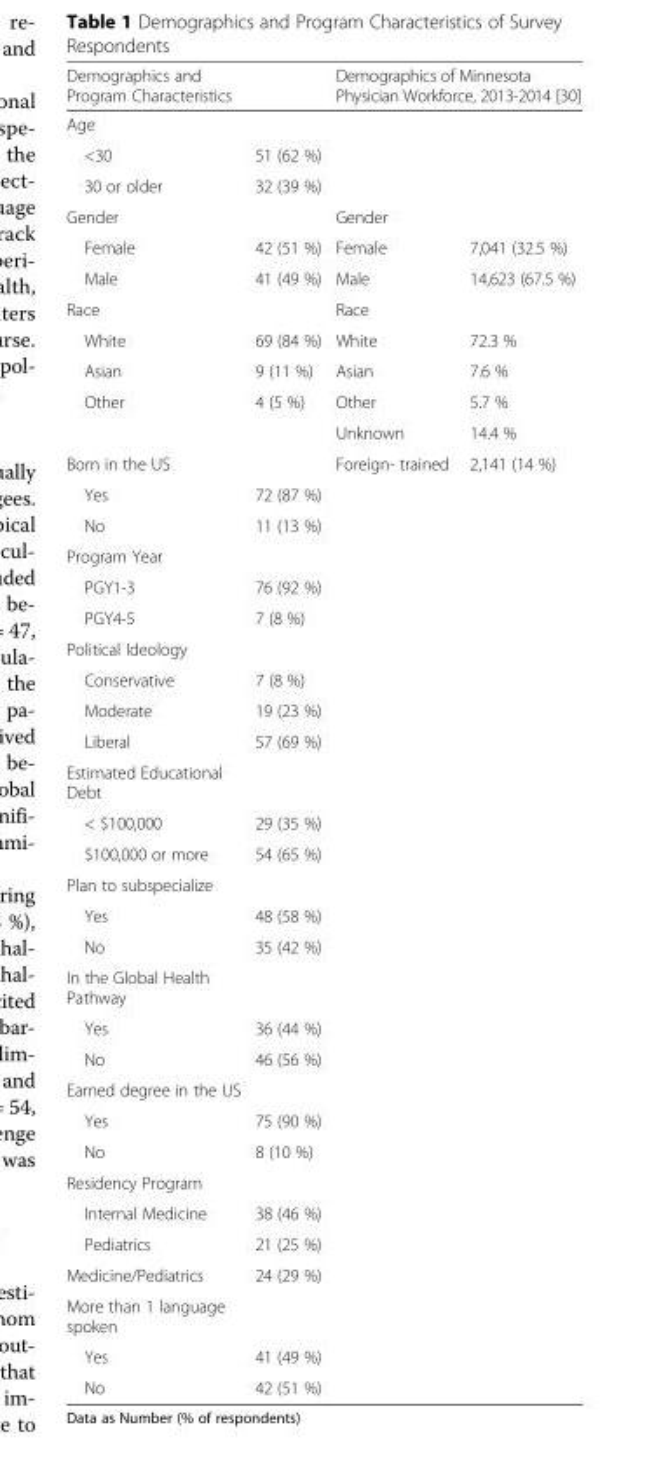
<table><thead><tr><td colspan="2">Demographics and Program Characteristics</td><td colspan="2">Demographics of Minnesota Physician Workforce, 2013-2014 [30]</td></tr><tr><td>Age</td><td></td><td></td><td></td></tr></thead><tbody><tr><td>&lt;30</td><td>51 (62 %)</td><td></td><td></td></tr><tr><td>30 or older</td><td>32 (39 %)</td><td></td><td></td></tr><tr><td>Gender</td><td></td><td>Gender</td><td></td></tr><tr><td>Female</td><td>42 (51 %)</td><td>Female</td><td>7,041 (32.5 %)</td></tr><tr><td>Male</td><td>41 (49 %)</td><td>Male</td><td>14,623 (67.5 %)</td></tr><tr><td>Race</td><td></td><td>Race</td><td></td></tr><tr><td>White</td><td>69 (84 %)</td><td>White</td><td>72.3 %</td></tr><tr><td>Asian</td><td>9 (11 %)</td><td>Asian</td><td>7.6 %</td></tr><tr><td rowspan="2">Other</td><td>4 (5 %)</td><td>Other</td><td>5.7 %</td></tr><tr><td></td><td>Unknown</td><td>14.4 %</td></tr><tr><td>Born in the US</td><td></td><td>Foreign- trained</td><td>2,141 (14 %)</td></tr><tr><td>Yes</td><td>72 (87 %)</td><td></td><td></td></tr><tr><td>No</td><td>11 (13 %)</td><td></td><td></td></tr><tr><td colspan="4">Program Year</td></tr><tr><td>PGY1-3</td><td>76 (92 %)</td><td></td><td></td></tr><tr><td>PGY4-5</td><td>7 (8 %)</td><td></td><td></td></tr><tr><td colspan="4">Political Ideology</td></tr><tr><td>Conservative</td><td>7 (8 %)</td><td></td><td></td></tr><tr><td>Moderate</td><td>19 (23 %)</td><td></td><td></td></tr><tr><td>Liberal</td><td>57 (69 %)</td><td></td><td></td></tr><tr><td colspan="4">Estimated Educational Debt</td></tr><tr><td>&lt; $100,000</td><td>29 (35 %)</td><td></td><td></td></tr><tr><td>$100,000 or more</td><td>54 (65 %)</td><td></td><td></td></tr><tr><td colspan="4">Plan to subspecialize</td></tr><tr><td>Yes</td><td>48 (58 %)</td><td></td><td></td></tr><tr><td>No</td><td>35 (42 %)</td><td></td><td></td></tr><tr><td colspan="4">In the Global Health Pathway</td></tr><tr><td>Yes</td><td>36 (44 %)</td><td></td><td></td></tr><tr><td>No</td><td>46 (56 %)</td><td></td><td></td></tr><tr><td colspan="4">Earned degree in the US</td></tr><tr><td>Yes</td><td>75 (90 %)</td><td></td><td></td></tr><tr><td>No</td><td>8 (10 %)</td><td></td><td></td></tr><tr><td colspan="4">Residency Program</td></tr><tr><td>Internal Medicine</td><td>38 (46 %)</td><td></td><td></td></tr><tr><td>Pediatrics</td><td>21 (25 %)</td><td></td><td></td></tr><tr><td>Medicine/Pediatrics</td><td>24 (29 %)</td><td></td><td></td></tr><tr><td colspan="4">More than 1 language spoken</td></tr><tr><td>Yes</td><td>41 (49 %)</td><td></td><td></td></tr><tr><td>No</td><td>42 (51 %)</td><td></td><td></td></tr></tbody></table>